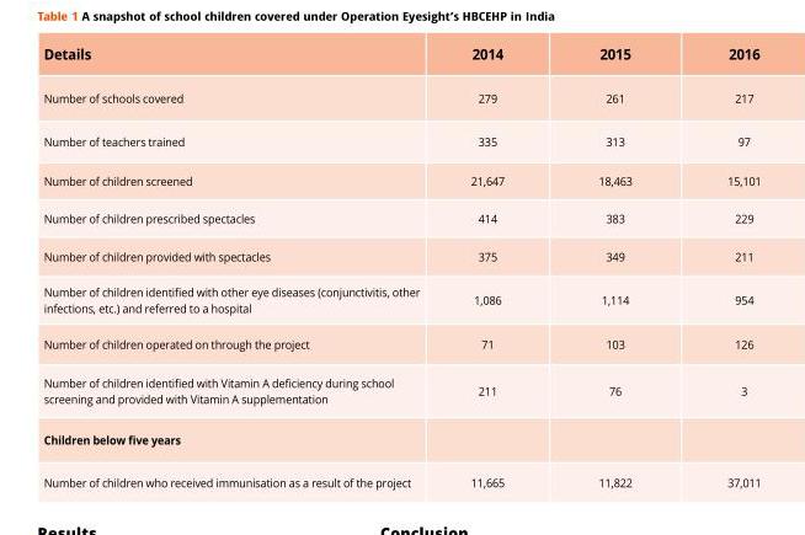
<table><thead><tr><td>Details</td><td>2014</td><td>2015</td><td>2016</td></tr></thead><tbody><tr><td>Number of schools covered</td><td>279</td><td>261</td><td>217</td></tr><tr><td>Number of teachers trained</td><td>335</td><td>313</td><td>97</td></tr><tr><td>Number of children screened</td><td>21,647</td><td>18,463</td><td>15,101</td></tr><tr><td>Number of children prescribed spectacles</td><td>414</td><td>383</td><td>229</td></tr><tr><td>Number of children provided with spectacles</td><td>375</td><td>349</td><td>211</td></tr><tr><td>Number of children identified with other eye diseases (conjunctivitis, other infections, etc.) and referred to a hospital</td><td>1,086</td><td>1,114</td><td>954</td></tr><tr><td>Number of children operated on through the project</td><td>71</td><td>103</td><td>126</td></tr><tr><td>Number of children identified with Vitamin A deficiency during school screening and provided with Vitamin A supplementation</td><td>211</td><td>76</td><td>3</td></tr><tr><td colspan="4">Children below five years</td></tr><tr><td>Number of children who received immunisation as a result of the project</td><td>11,665</td><td>11,822</td><td>37,011</td></tr></tbody></table>